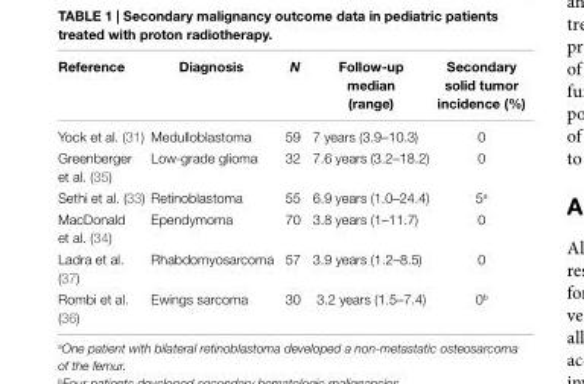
<table><thead><tr><td>Reference</td><td>Diagnosis</td><td>N</td><td>Follow-up median (range)</td><td>Secondary solid tumor incidence (%)</td></tr></thead><tbody><tr><td>Yock et al. (31)</td><td>Medulloblastoma</td><td>59</td><td>7 years (3.9–10.3)</td><td>0</td></tr><tr><td>Greenberger et al. (35)</td><td>Low-grade glioma</td><td>32</td><td>7.6 years (3.2–18.2)</td><td>0</td></tr><tr><td>Sethi et al. (33)</td><td>Retinoblastoma</td><td>55</td><td>6.9 years (1.0–24.4)</td><td>5<sup>a</sup></td></tr><tr><td>MacDonald et al. (34)</td><td>Ependymoma</td><td>70</td><td>3.8 years (1–11.7)</td><td>0</td></tr><tr><td>Ladra et al. (37)</td><td>Rhabdomyosarcoma</td><td>57</td><td>3.9 years (1.2–8.5)</td><td>0</td></tr><tr><td>Rombi et al. (36)</td><td>Ewings sarcoma</td><td>30</td><td>3.2 years (1.5–7.4)</td><td>0<sup>b</sup></td></tr></tbody></table>